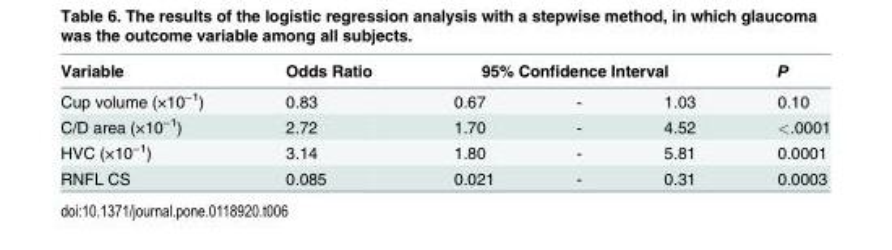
<table><thead><tr><td rowspan="2">Variable Cup volume (×10<sup>−1</sup>)</td><td rowspan="2">Odds Ratio 0.83</td><td colspan="3">95% Confidence Interval</td><td rowspan="2">P 0.10</td></tr><tr><td>0.67</td><td>-</td><td>1.03</td></tr></thead><tbody><tr><td>C/D area (×10<sup>−1</sup>)</td><td>2.72</td><td>1.70</td><td>-</td><td>4.52</td><td>&lt;.0001</td></tr><tr><td>HVC (×10<sup>−1</sup>)</td><td>3.14</td><td>1.80</td><td>-</td><td>5.81</td><td>0.0001</td></tr><tr><td>RNFL CS</td><td>0.085</td><td>0.021</td><td>-</td><td>0.31</td><td>0.0003</td></tr></tbody></table>